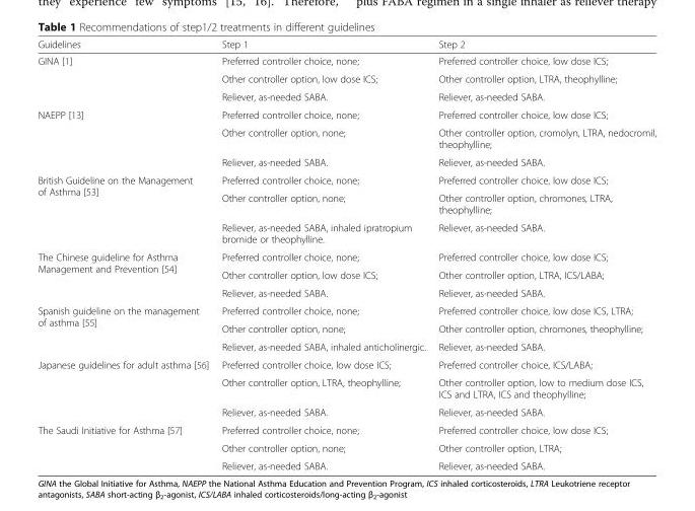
<table><thead><tr><td>Guidelines</td><td>Step 1</td><td>Step 2</td></tr></thead><tbody><tr><td rowspan="3">GINA [1]</td><td>Preferred controller choice, none;</td><td>Preferred controller choice, low dose ICS;</td></tr><tr><td>Other controller option, low dose ICS;</td><td>Other controller option, LTRA, theophylline;</td></tr><tr><td>Reliever, as-needed SABA.</td><td>Reliever, as-needed SABA.</td></tr><tr><td rowspan="3">NAEPP [13]</td><td>Preferred controller choice, none;</td><td>Preferred controller choice, low dose ICS;</td></tr><tr><td>Other controller option, none;</td><td>Other controller option, cromolyn, LTRA, nedocromil, theophylline;</td></tr><tr><td>Reliever, as-needed SABA.</td><td>Reliever, as-needed SABA.</td></tr><tr><td rowspan="3">British Guideline on the Management of Asthma [53]</td><td>Preferred controller choice, none;</td><td>Preferred controller choice, low dose ICS;</td></tr><tr><td>Other controller option, none;</td><td>Other controller option, chromones, LTRA, theophylline;</td></tr><tr><td>Reliever, as-needed SABA, inhaled ipratropium bromide or theophylline.</td><td>Reliever, as-needed SABA.</td></tr><tr><td rowspan="3">The Chinese guideline for Asthma Management and Prevention [54]</td><td>Preferred controller choice, none;</td><td>Preferred controller choice, low dose ICS;</td></tr><tr><td>Other controller option, low dose ICS;</td><td>Other controller option, LTRA, ICS/LABA;</td></tr><tr><td>Reliever, as-needed SABA.</td><td>Reliever, as-needed SABA.</td></tr><tr><td rowspan="3">Spanish guideline on the management of asthma [55]</td><td>Preferred controller choice, none;</td><td>Preferred controller choice, low dose ICS, LTRA;</td></tr><tr><td>Other controller option, none;</td><td>Other controller option, chromones, theophylline;</td></tr><tr><td>Reliever, as-needed SABA, inhaled anticholinergic.</td><td>Reliever, as-needed SABA.</td></tr><tr><td rowspan="3">Japanese guidelines for adult asthma [56]</td><td>Preferred controller choice, low dose ICS;</td><td>Preferred controller choice, ICS/LABA;</td></tr><tr><td>Other controller option, LTRA, theophylline;</td><td>Other controller option, low to medium dose ICS, ICS and LTRA, ICS and theophylline;</td></tr><tr><td>Reliever, as-needed SABA.</td><td>Reliever, as-needed SABA.</td></tr><tr><td rowspan="3">The Saudi Initiative for Asthma [57]</td><td>Preferred controller choice, none;</td><td>Preferred controller choice, low dose ICS;</td></tr><tr><td>Other controller option, none;</td><td>Other controller option, LTRA;</td></tr><tr><td>Reliever, as-needed SABA.</td><td>Reliever, as-needed SABA.</td></tr></tbody></table>